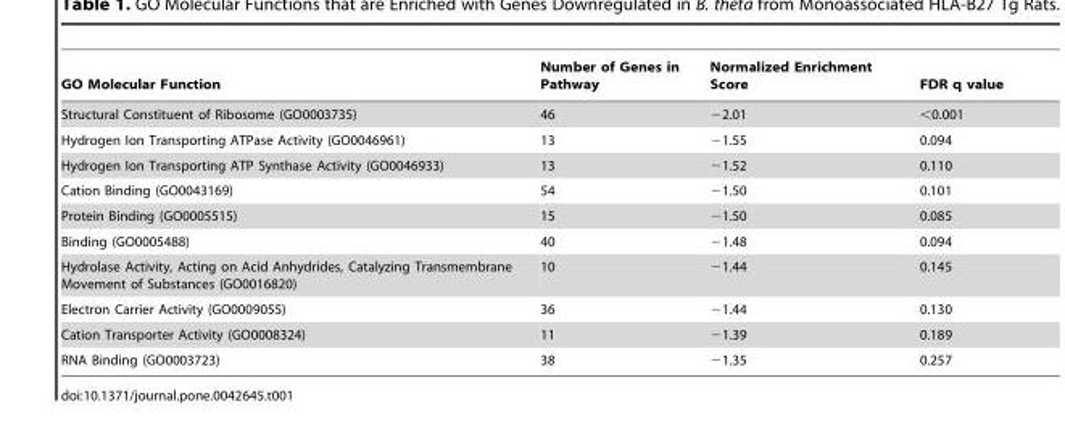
<table><thead><tr><td>GO Molecular Function</td><td>Number of Genes in Pathway</td><td>Normalized Enrichment Score</td><td>FDR q value</td></tr></thead><tbody><tr><td>Structural Constituent of Ribosome (GO0003735)</td><td>46</td><td>−2.01</td><td>&lt;0.001</td></tr><tr><td>Hydrogen Ion Transporting ATPase Activity (GO0046961)</td><td>13</td><td>−1.55</td><td>0.094</td></tr><tr><td>Hydrogen Ion Transporting ATP Synthase Activity (GO0046933)</td><td>13</td><td>−1.52</td><td>0.110</td></tr><tr><td>Cation Binding (GO0043169)</td><td>54</td><td>−1.50</td><td>0.101</td></tr><tr><td>Protein Binding (GO0005515)</td><td>15</td><td>−1.50</td><td>0.085</td></tr><tr><td>Binding (GO0005488)</td><td>40</td><td>−1.48</td><td>0.094</td></tr><tr><td>Hydrolase Activity, Acting on Acid Anhydrides, Catalyzing Transmembrane Movement of Substances (GO0016820)</td><td>10</td><td>−1.44</td><td>0.145</td></tr><tr><td>Electron Carrier Activity (GO0009055)</td><td>36</td><td>−1.44</td><td>0.130</td></tr><tr><td>Cation Transporter Activity (GO0008324)</td><td>11</td><td>−1.39</td><td>0.189</td></tr><tr><td>RNA Binding (GO0003723)</td><td>38</td><td>−1.35</td><td>0.257</td></tr></tbody></table>